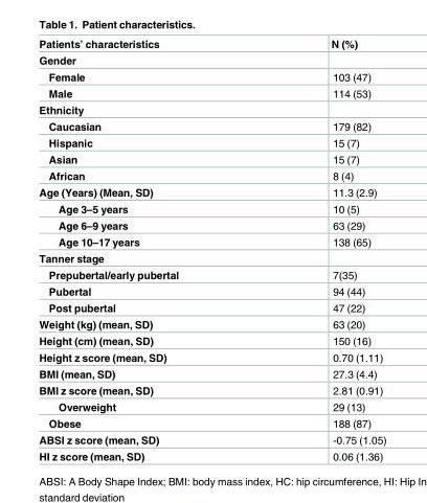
<table><thead><tr><td>Patients’ characteristics</td><td>N (%)</td></tr></thead><tbody><tr><td colspan="2">Gender</td></tr><tr><td>Female</td><td>103 (47)</td></tr><tr><td>Male</td><td>114 (53)</td></tr><tr><td colspan="2">Ethnicity</td></tr><tr><td>Caucasian</td><td>179 (82)</td></tr><tr><td>Hispanic</td><td>15 (7)</td></tr><tr><td>Asian</td><td>15 (7)</td></tr><tr><td>African</td><td>8 (4)</td></tr><tr><td>Age (Years) (Mean, SD)</td><td>11.3 (2.9)</td></tr><tr><td>Age 3–5 years</td><td>10 (5)</td></tr><tr><td>Age 6–9 years</td><td>63 (29)</td></tr><tr><td>Age 10–17 years</td><td>138 (65)</td></tr><tr><td colspan="2">Tanner stage</td></tr><tr><td>Prepubertal/early pubertal</td><td>7(35)</td></tr><tr><td>Pubertal</td><td>94 (44)</td></tr><tr><td>Post pubertal</td><td>47 (22)</td></tr><tr><td>Weight (kg) (mean, SD)</td><td>63 (20)</td></tr><tr><td>Height (cm) (mean, SD)</td><td>150 (16)</td></tr><tr><td>Height z score (mean, SD)</td><td>0.70 (1.11)</td></tr><tr><td>BMI (mean, SD)</td><td>27.3 (4.4)</td></tr><tr><td>BMI z score (mean, SD)</td><td>2.81 (0.91)</td></tr><tr><td>Overweight</td><td>29 (13)</td></tr><tr><td>Obese</td><td>188 (87)</td></tr><tr><td>ABSI z score (mean, SD)</td><td>-0.75 (1.05)</td></tr><tr><td>HI z score (mean, SD)</td><td>0.06 (1.36)</td></tr></tbody></table>